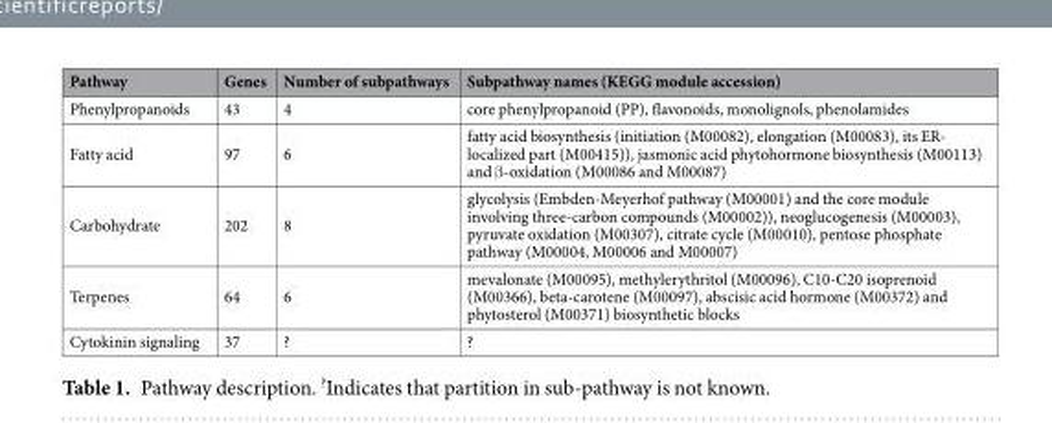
<table><thead><tr><td>Pathway</td><td>Genes</td><td>Number of subpathways</td><td>Subpathway names (KEGG module accession)</td></tr></thead><tbody><tr><td>Phenylpropanoids</td><td>43</td><td>4</td><td>core phenylpropanoid (PP), flavonoids, monolignols, phenolamides</td></tr><tr><td>Fatty acid</td><td>97</td><td>6</td><td>fatty acid biosynthesis (initiation (M00082), elongation (M00083), its ER- localized part (M00415)), jasmonic acid phytohormone biosynthesis (M00113) and β-oxidation (M00086 and M00087)</td></tr><tr><td>Carbohydrate</td><td>202</td><td>8</td><td>glycolysis (Embden-Meyerhof pathway (M00001) and the core module involving three-carbon compounds (M00002)), neoglucogenesis (M00003), pyruvate oxidation (M00307), citrate cycle (M00010), pentose phosphate pathway (M00004, M00006 and M00007)</td></tr><tr><td>Terpenes</td><td>64</td><td>6</td><td>mevalonate (M00095), methylerythritol (M00096), C10-C20 isoprenoid (M00366), beta-carotene (M00097), abscisic acid hormone (M00372) and phytosterol (M00371) biosynthetic blocks</td></tr><tr><td>Cytokinin signaling</td><td>37</td><td>?</td><td>?</td></tr></tbody></table>